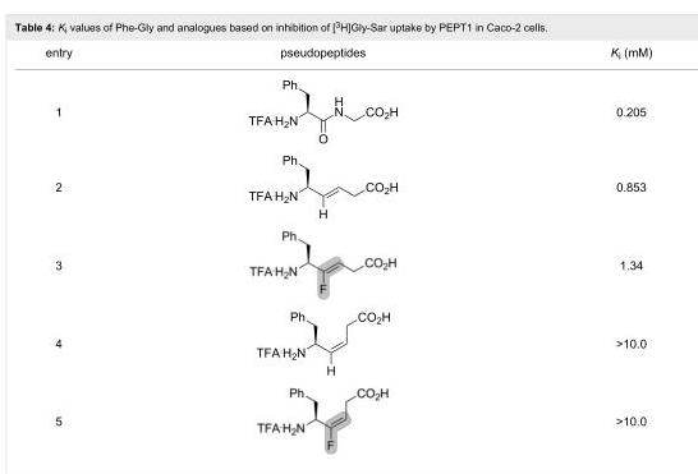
<table><tbody><tr><td>entry</td><td>pseudopeptides</td><td>K<sub>i</sub> (mM)</td></tr><tr><td>1</td><td></td><td>0.205</td></tr><tr><td>2</td><td></td><td>0.853</td></tr><tr><td>3</td><td></td><td>1.34</td></tr><tr><td>4</td><td></td><td>&gt;10.0</td></tr><tr><td>5</td><td></td><td>&gt;10.0</td></tr></tbody></table>